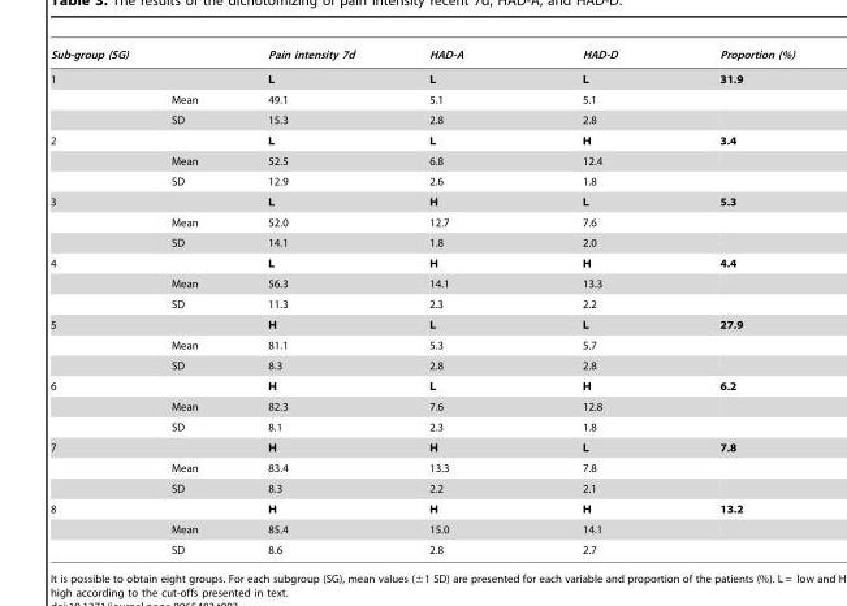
<table><thead><tr><td>Sub-group (SG)</td><td></td><td>Pain intensity 7d</td><td>HAD-A</td><td>HAD-D</td><td>Proportion (%)</td></tr></thead><tbody><tr><td rowspan="3">1</td><td></td><td>L</td><td>L</td><td>L</td><td>31.9</td></tr><tr><td>Mean</td><td>49.1</td><td>5.1</td><td>5.1</td><td></td></tr><tr><td>SD</td><td>15.3</td><td>2.8</td><td>2.8</td><td></td></tr><tr><td rowspan="3">2</td><td></td><td>L</td><td>L</td><td>H</td><td>3.4</td></tr><tr><td>Mean</td><td>52.5</td><td>6.8</td><td>12.4</td><td></td></tr><tr><td>SD</td><td>12.9</td><td>2.6</td><td>1.8</td><td></td></tr><tr><td rowspan="3">3</td><td></td><td>L</td><td>H</td><td>L</td><td>5.3</td></tr><tr><td>Mean</td><td>52.0</td><td>12.7</td><td>7.6</td><td></td></tr><tr><td>SD</td><td>14.1</td><td>1.8</td><td>2.0</td><td></td></tr><tr><td rowspan="3">4</td><td></td><td>L</td><td>H</td><td>H</td><td>4.4</td></tr><tr><td>Mean</td><td>56.3</td><td>14.1</td><td>13.3</td><td></td></tr><tr><td>SD</td><td>11.3</td><td>2.3</td><td>2.2</td><td></td></tr><tr><td rowspan="3">5</td><td></td><td>H</td><td>L</td><td>L</td><td>27.9</td></tr><tr><td>Mean</td><td>81.1</td><td>5.3</td><td>5.7</td><td></td></tr><tr><td>SD</td><td>8.3</td><td>2.8</td><td>2.8</td><td></td></tr><tr><td rowspan="3">6</td><td></td><td>H</td><td>L</td><td>H</td><td>6.2</td></tr><tr><td>Mean</td><td>82.3</td><td>7.6</td><td>12.8</td><td></td></tr><tr><td>SD</td><td>8.1</td><td>2.3</td><td>1.8</td><td></td></tr><tr><td rowspan="3">7</td><td></td><td>H</td><td>H</td><td>L</td><td>7.8</td></tr><tr><td>Mean</td><td>83.4</td><td>13.3</td><td>7.8</td><td></td></tr><tr><td>SD</td><td>8.3</td><td>2.2</td><td>2.1</td><td></td></tr><tr><td rowspan="3">8</td><td></td><td>H</td><td>H</td><td>H</td><td>13.2</td></tr><tr><td>Mean</td><td>85.4</td><td>15.0</td><td>14.1</td><td></td></tr><tr><td>SD</td><td>8.6</td><td>2.8</td><td>2.7</td><td></td></tr></tbody></table>